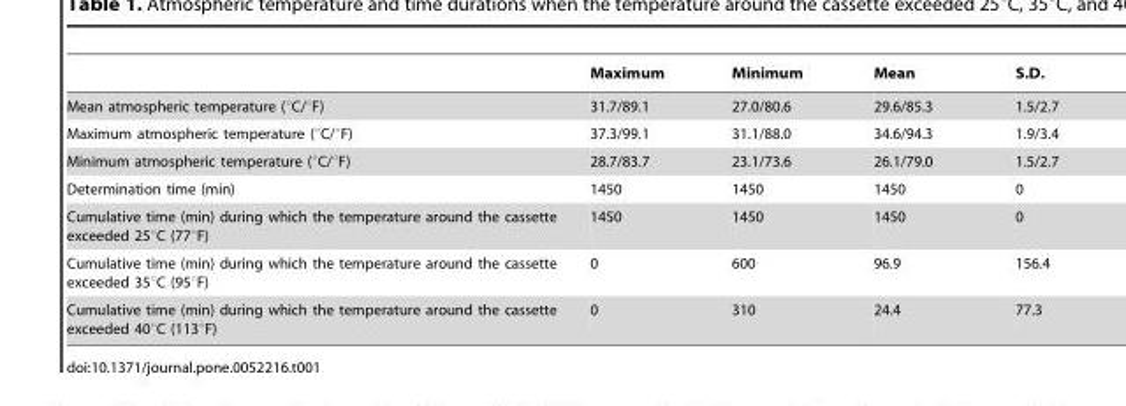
<table><thead><tr><td></td><td>Maximum</td><td>Minimum</td><td>Mean</td><td>S.D.</td></tr></thead><tbody><tr><td>Mean atmospheric temperature (°C/°F)</td><td>31.7/89.1</td><td>27.0/80.6</td><td>29.6/85.3</td><td>1.5/2.7</td></tr><tr><td>Maximum atmospheric temperature (°C/°F)</td><td>37.3/99.1</td><td>31.1/88.0</td><td>34.6/94.3</td><td>1.9/3.4</td></tr><tr><td>Minimum atmospheric temperature (°C/°F)</td><td>28.7/83.7</td><td>23.1/73.6</td><td>26.1/79.0</td><td>1.5/2.7</td></tr><tr><td>Determination time (min)</td><td>1450</td><td>1450</td><td>1450</td><td>0</td></tr><tr><td>Cumulative time (min) during which the temperature around the cassette exceeded 25°C (77°F)</td><td>1450</td><td>1450</td><td>1450</td><td>0</td></tr><tr><td>Cumulative time (min) during which the temperature around the cassette exceeded 35°C (95°F)</td><td>0</td><td>600</td><td>96.9</td><td>156.4</td></tr><tr><td>Cumulative time (min) during which the temperature around the cassette exceeded 40°C (113°F)</td><td>0</td><td>310</td><td>24.4</td><td>77.3</td></tr></tbody></table>